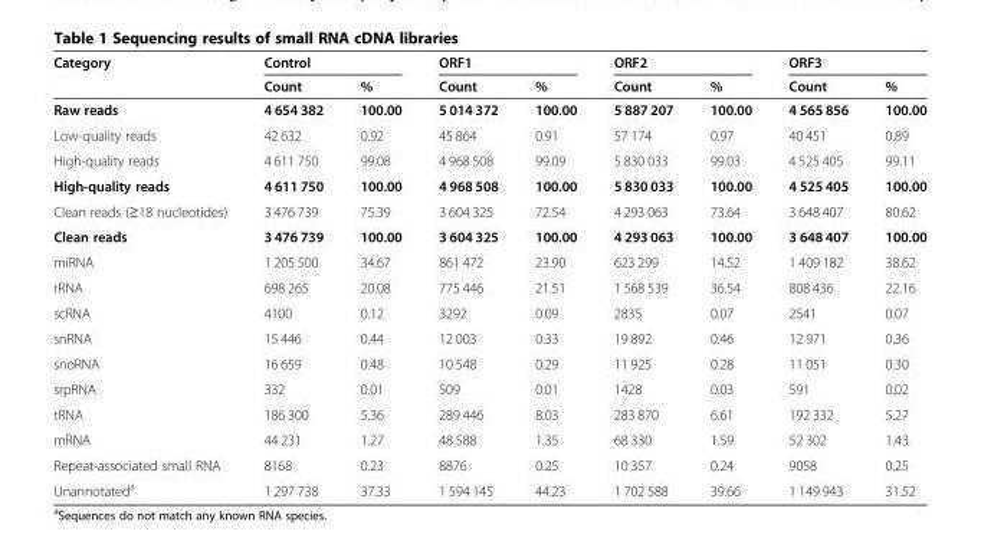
<table><thead><tr><td rowspan="2">Category</td><td colspan="2">Control</td><td colspan="2">ORF1</td><td colspan="2">ORF2</td><td colspan="2">ORF3</td></tr><tr><td>Count</td><td>%</td><td>Count</td><td>%</td><td>Count</td><td>%</td><td>Count</td><td>%</td></tr></thead><tbody><tr><td>Raw reads</td><td>4 654 382</td><td>100.00</td><td>5 014 372</td><td>100.00</td><td>5 887 207</td><td>100.00</td><td>4 565 856</td><td>100.00</td></tr><tr><td>Low-quality reads</td><td>42 632</td><td>0.92</td><td>45 864</td><td>0.91</td><td>57 174</td><td>0.97</td><td>40 451</td><td>0.89</td></tr><tr><td>High-quality reads</td><td>4 611 750</td><td>99.08</td><td>4 968 508</td><td>99.09</td><td>5 830 033</td><td>99.03</td><td>4 525 405</td><td>99.11</td></tr><tr><td>High-quality reads</td><td>4 611 750</td><td>100.00</td><td>4 968 508</td><td>100.00</td><td>5 830 033</td><td>100.00</td><td>4 525 405</td><td>100.00</td></tr><tr><td>Clean reads (≥18 nucleotides)</td><td>3 476 739</td><td>75.39</td><td>3 604 325</td><td>72.54</td><td>4 293 063</td><td>73.64</td><td>3 648 407</td><td>80.62</td></tr><tr><td>Clean reads</td><td>3 476 739</td><td>100.00</td><td>3 604 325</td><td>100.00</td><td>4 293 063</td><td>100.00</td><td>3 648 407</td><td>100.00</td></tr><tr><td>miRNA</td><td>1 205 500</td><td>34.67</td><td>861 472</td><td>23.90</td><td>623 299</td><td>14.52</td><td>1 409 182</td><td>38.62</td></tr><tr><td>rRNA</td><td>698 265</td><td>20.08</td><td>775 446</td><td>21.51</td><td>1 568 539</td><td>36.54</td><td>808 436</td><td>22.16</td></tr><tr><td>scRNA</td><td>4100</td><td>0.12</td><td>3292</td><td>0.09</td><td>2835</td><td>0.07</td><td>2541</td><td>0.07</td></tr><tr><td>snRNA</td><td>15 446</td><td>0.44</td><td>12 003</td><td>0.33</td><td>19 892</td><td>0.46</td><td>12 971</td><td>0.36</td></tr><tr><td>snoRNA</td><td>16 659</td><td>0.48</td><td>10 548</td><td>0.29</td><td>11 925</td><td>0.28</td><td>11 051</td><td>0.30</td></tr><tr><td>srpRNA</td><td>332</td><td>0.01</td><td>509</td><td>0.01</td><td>1428</td><td>0.03</td><td>591</td><td>0.02</td></tr><tr><td>tRNA</td><td>186 300</td><td>5.36</td><td>289 446</td><td>8.03</td><td>283 870</td><td>6.61</td><td>192 332</td><td>5.27</td></tr><tr><td>mRNA</td><td>44 231</td><td>1.27</td><td>48 588</td><td>1.35</td><td>68 330</td><td>1.59</td><td>52 302</td><td>1.43</td></tr><tr><td>Repeat-associated small RNA</td><td>8168</td><td>0.23</td><td>8876</td><td>0.25</td><td>10 357</td><td>0.24</td><td>9058</td><td>0.25</td></tr><tr><td>Unannotated<sup>a</sup></td><td>1 297 738</td><td>37.33</td><td>1 594 145</td><td>44.23</td><td>1 702 588</td><td>39.66</td><td>1 149 943</td><td>31.52</td></tr></tbody></table>